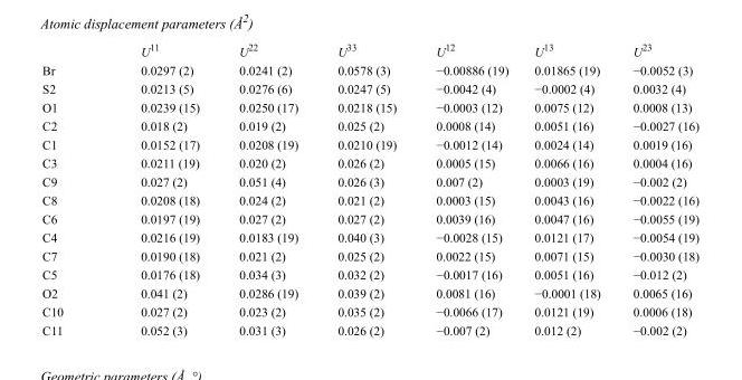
<table><thead><tr><td></td><td>U<sup>11</sup></td><td>U<sup>22</sup></td><td>U<sup>33</sup></td><td>U<sup>12</sup></td><td>U<sup>13</sup></td><td>U<sup>23</sup></td></tr></thead><tbody><tr><td>Br</td><td>0.0297 (2)</td><td>0.0241 (2)</td><td>0.0578 (3)</td><td>−0.00886 (19)</td><td>0.01865 (19)</td><td>−0.0052 (3)</td></tr><tr><td>S2</td><td>0.0213 (5)</td><td>0.0276 (6)</td><td>0.0247 (5)</td><td>−0.0042 (4)</td><td>−0.0002 (4)</td><td>0.0032 (4)</td></tr><tr><td>O1</td><td>0.0239 (15)</td><td>0.0250 (17)</td><td>0.0218 (15)</td><td>−0.0003 (12)</td><td>0.0075 (12)</td><td>0.0008 (13)</td></tr><tr><td>C2</td><td>0.018 (2)</td><td>0.019 (2)</td><td>0.025 (2)</td><td>0.0008 (14)</td><td>0.0051 (16)</td><td>−0.0027 (16)</td></tr><tr><td>C1</td><td>0.0152 (17)</td><td>0.0208 (19)</td><td>0.0210 (19)</td><td>−0.0012 (14)</td><td>0.0024 (14)</td><td>0.0019 (16)</td></tr><tr><td>C3</td><td>0.0211 (19)</td><td>0.020 (2)</td><td>0.026 (2)</td><td>0.0005 (15)</td><td>0.0066 (16)</td><td>0.0004 (16)</td></tr><tr><td>C9</td><td>0.027 (2)</td><td>0.051 (4)</td><td>0.026 (3)</td><td>0.007 (2)</td><td>0.0003 (19)</td><td>−0.002 (2)</td></tr><tr><td>C8</td><td>0.0208 (18)</td><td>0.024 (2)</td><td>0.021 (2)</td><td>0.0003 (15)</td><td>0.0043 (16)</td><td>−0.0022 (16)</td></tr><tr><td>C6</td><td>0.0197 (19)</td><td>0.027 (2)</td><td>0.027 (2)</td><td>0.0039 (16)</td><td>0.0047 (16)</td><td>−0.0055 (19)</td></tr><tr><td>C4</td><td>0.0216 (19)</td><td>0.0183 (19)</td><td>0.040 (3)</td><td>−0.0028 (15)</td><td>0.0121 (17)</td><td>−0.0054 (19)</td></tr><tr><td>C7</td><td>0.0190 (18)</td><td>0.021 (2)</td><td>0.025 (2)</td><td>0.0022 (15)</td><td>0.0071 (15)</td><td>−0.0030 (18)</td></tr><tr><td>C5</td><td>0.0176 (18)</td><td>0.034 (3)</td><td>0.032 (2)</td><td>−0.0017 (16)</td><td>0.0051 (16)</td><td>−0.012 (2)</td></tr><tr><td>O2</td><td>0.041 (2)</td><td>0.0286 (19)</td><td>0.039 (2)</td><td>0.0081 (16)</td><td>−0.0001 (18)</td><td>0.0065 (16)</td></tr><tr><td>C10</td><td>0.027 (2)</td><td>0.023 (2)</td><td>0.035 (2)</td><td>−0.0066 (17)</td><td>0.0121 (19)</td><td>0.0006 (18)</td></tr><tr><td>C11</td><td>0.052 (3)</td><td>0.031 (3)</td><td>0.026 (2)</td><td>−0.007 (2)</td><td>0.012 (2)</td><td>−0.002 (2)</td></tr></tbody></table>